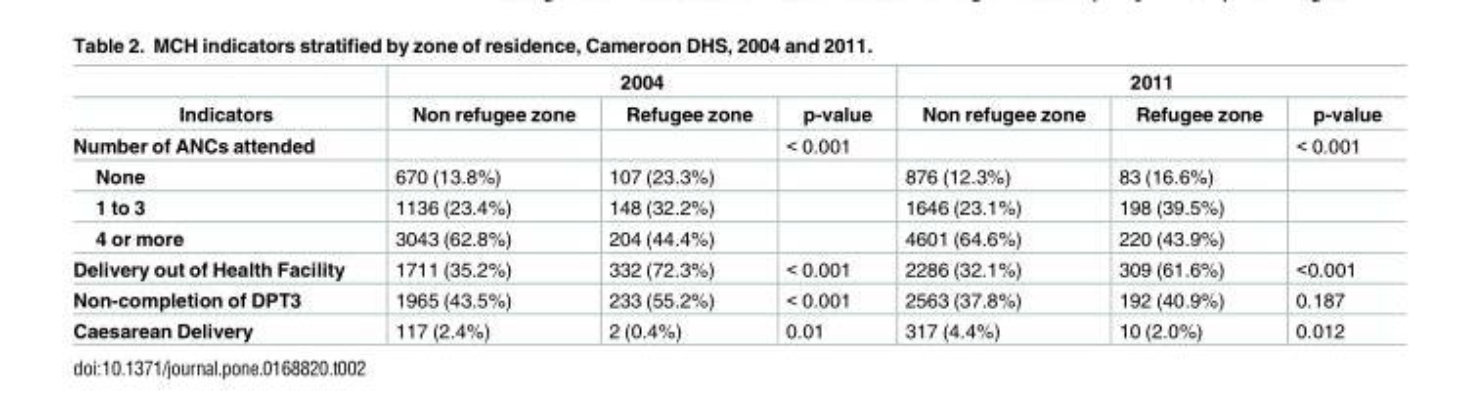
<table><thead><tr><td rowspan="2">Indicators</td><td colspan="3">2004</td><td colspan="3">2011</td></tr><tr><td>Non refugee zone</td><td>Refugee zone</td><td>p-value</td><td>Non refugee zone</td><td>Refugee zone</td><td>p-value</td></tr></thead><tbody><tr><td>Number of ANCs attended</td><td></td><td></td><td>&lt; 0.001</td><td></td><td></td><td>&lt; 0.001</td></tr><tr><td>None</td><td>670 (13.8%)</td><td>107 (23.3%)</td><td></td><td>876 (12.3%)</td><td>83 (16.6%)</td><td></td></tr><tr><td>1 to 3</td><td>1136 (23.4%)</td><td>148 (32.2%)</td><td></td><td>1646 (23.1%)</td><td>198 (39.5%)</td><td></td></tr><tr><td>4 or more</td><td>3043 (62.8%)</td><td>204 (44.4%)</td><td></td><td>4601 (64.6%)</td><td>220 (43.9%)</td><td></td></tr><tr><td>Delivery out of Health Facility</td><td>1711 (35.2%)</td><td>332 (72.3%)</td><td>&lt; 0.001</td><td>2286 (32.1%)</td><td>309 (61.6%)</td><td>&lt;0.001</td></tr><tr><td>Non-completion of DPT3</td><td>1965 (43.5%)</td><td>233 (55.2%)</td><td>&lt; 0.001</td><td>2563 (37.8%)</td><td>192 (40.9%)</td><td>0.187</td></tr><tr><td>Caesarean Delivery</td><td>117 (2.4%)</td><td>2 (0.4%)</td><td>0.01</td><td>317 (4.4%)</td><td>10 (2.0%)</td><td>0.012</td></tr></tbody></table>